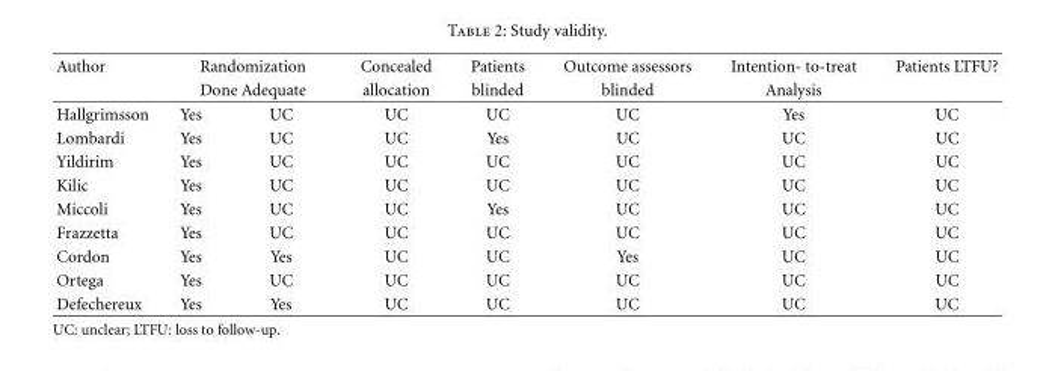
<table><thead><tr><td rowspan="3">Author Hallgrimsson</td><td rowspan="2" colspan="2">Randomization Done Adequate</td><td rowspan="3">Concealed allocation UC</td><td rowspan="3">Patients blinded UC</td><td rowspan="3">Outcome assessors blinded UC</td><td rowspan="3">Intention- to-treat Analysis Yes</td><td rowspan="3">Patients LTFU? UC</td></tr><tr></tr><tr><td>Yes</td><td>UC</td></tr></thead><tbody><tr><td>Lombardi</td><td>Yes</td><td>UC</td><td>UC</td><td>Yes</td><td>UC</td><td>UC</td><td>UC</td></tr><tr><td>Yildirim</td><td>Yes</td><td>UC</td><td>UC</td><td>UC</td><td>UC</td><td>UC</td><td>UC</td></tr><tr><td>Kilic</td><td>Yes</td><td>UC</td><td>UC</td><td>UC</td><td>UC</td><td>UC</td><td>UC</td></tr><tr><td>Miccoli</td><td>Yes</td><td>UC</td><td>UC</td><td>Yes</td><td>UC</td><td>UC</td><td>UC</td></tr><tr><td>Frazzetta</td><td>Yes</td><td>UC</td><td>UC</td><td>UC</td><td>UC</td><td>UC</td><td>UC</td></tr><tr><td>Cordon</td><td>Yes</td><td>Yes</td><td>UC</td><td>UC</td><td>Yes</td><td>UC</td><td>UC</td></tr><tr><td>Ortega</td><td>Yes</td><td>UC</td><td>UC</td><td>UC</td><td>UC</td><td>UC</td><td>UC</td></tr><tr><td>Defechereux</td><td>Yes</td><td>Yes</td><td>UC</td><td>UC</td><td>UC</td><td>UC</td><td>UC</td></tr></tbody></table>